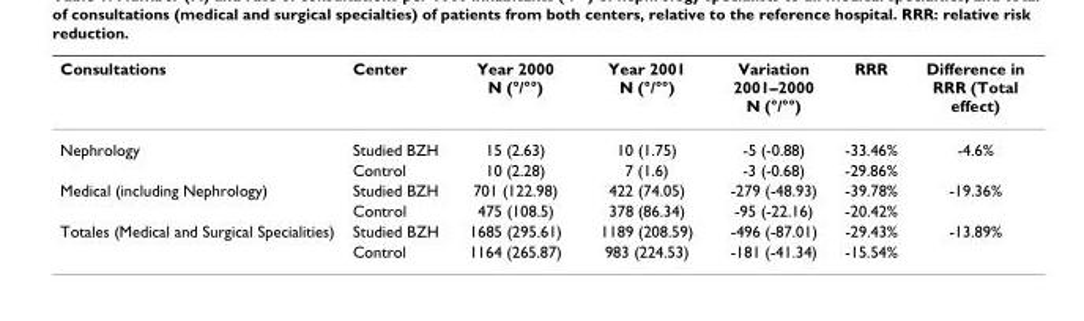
<table><thead><tr><td>Consultations</td><td>Center</td><td>Year 2000 N (°/°°)</td><td>Year 2001 N (°/°°)</td><td>Variation 2001–2000 N (°/°°)</td><td>RRR</td><td>Difference in RRR (Total effect)</td></tr></thead><tbody><tr><td rowspan="2">Nephrology</td><td>Studied BZH</td><td>15 (2.63)</td><td>10 (1.75)</td><td>-5 (-0.88)</td><td>-33.46%</td><td>-4.6%</td></tr><tr><td>Control</td><td>10 (2.28)</td><td>7 (1.6)</td><td>-3 (-0.68)</td><td>-29.86%</td><td></td></tr><tr><td rowspan="2">Medical (including Nephrology)</td><td>Studied BZH</td><td>701 (122.98)</td><td>422 (74.05)</td><td>-279 (-48.93)</td><td>-39.78%</td><td>-19.36%</td></tr><tr><td>Control</td><td>475 (108.5)</td><td>378 (86.34)</td><td>-95 (-22.16)</td><td>-20.42%</td><td></td></tr><tr><td rowspan="2">Totales (Medical and Surgical Specialities)</td><td>Studied BZH</td><td>1685 (295.61)</td><td>1189 (208.59)</td><td>-496 (-87.01)</td><td>-29.43%</td><td>-13.89%</td></tr><tr><td>Control</td><td>1164 (265.87)</td><td>983 (224.53)</td><td>-181 (-41.34)</td><td>-15.54%</td><td></td></tr></tbody></table>